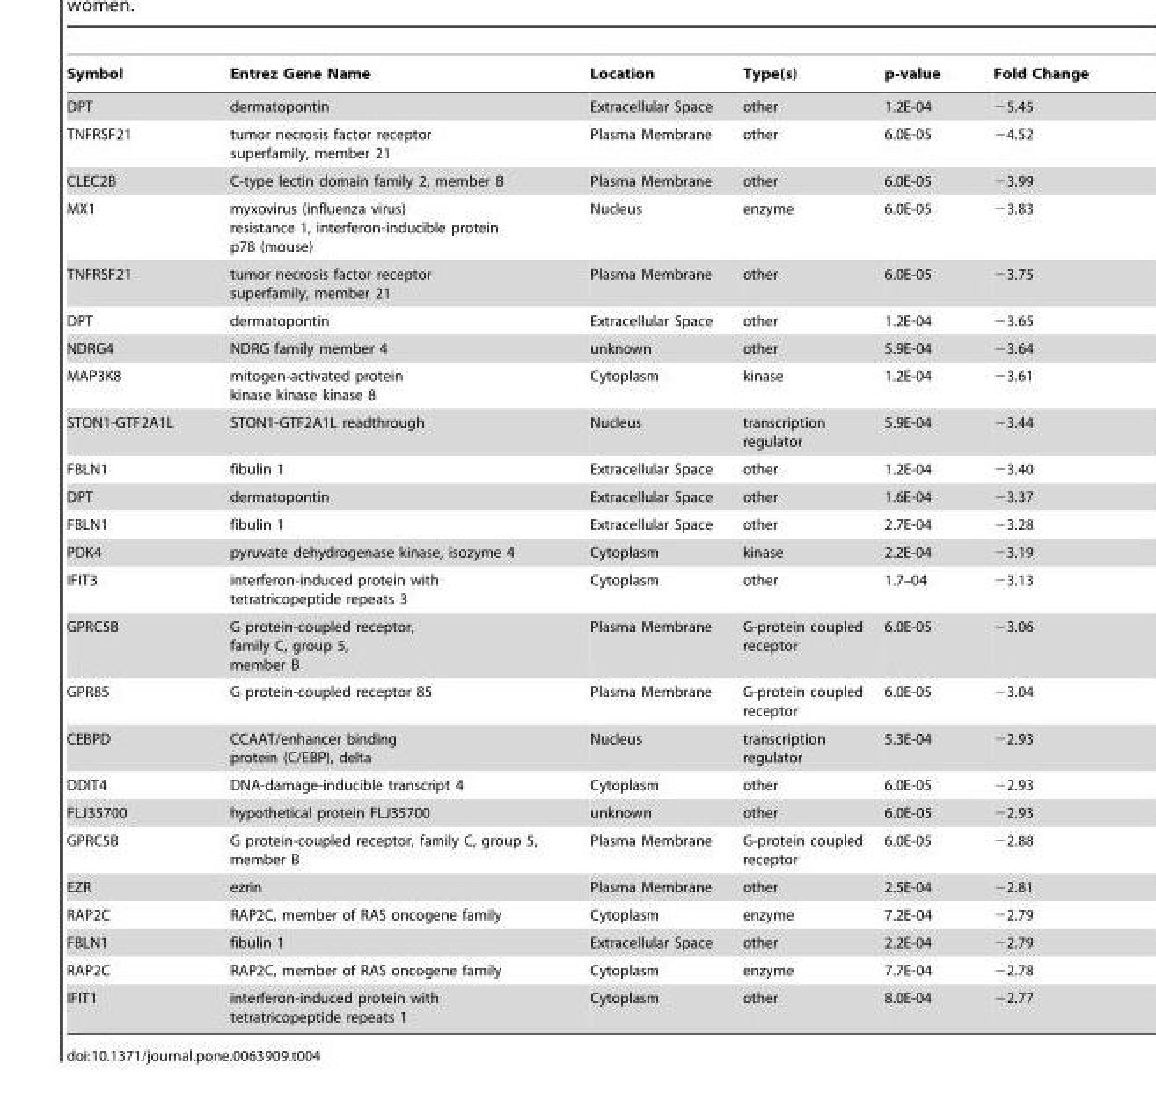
<table><thead><tr><td>Symbol</td><td>Entrez Gene Name</td><td>Location</td><td>Type(s)</td><td>p-value</td><td>Fold Change</td></tr></thead><tbody><tr><td>DPT</td><td>dermatopontin</td><td>Extracellular Space</td><td>other</td><td>1.2E-04</td><td>−5.45</td></tr><tr><td>TNFRSF21</td><td>tumor necrosis factor receptor superfamily, member 21</td><td>Plasma Membrane</td><td>other</td><td>6.0E-05</td><td>−4.52</td></tr><tr><td>CLEC2B</td><td>C-type lectin domain family 2, member B</td><td>Plasma Membrane</td><td>other</td><td>6.0E-05</td><td>−3.99</td></tr><tr><td>MX1</td><td>myxovirus (influenza virus) resistance 1, interferon-inducible protein p78 (mouse)</td><td>Nucleus</td><td>enzyme</td><td>6.0E-05</td><td>−3.83</td></tr><tr><td>TNFRSF21</td><td>tumor necrosis factor receptor superfamily, member 21</td><td>Plasma Membrane</td><td>other</td><td>6.0E-05</td><td>−3.75</td></tr><tr><td>DPT</td><td>dermatopontin</td><td>Extracellular Space</td><td>other</td><td>1.2E-04</td><td>−3.65</td></tr><tr><td>NDRG4</td><td>NDRG family member 4</td><td>unknown</td><td>other</td><td>5.9E-04</td><td>−3.64</td></tr><tr><td>MAP3K8</td><td>mitogen-activated protein kinase kinase kinase 8</td><td>Cytoplasm</td><td>kinase</td><td>1.2E-04</td><td>−3.61</td></tr><tr><td>STON1-GTF2A1L</td><td>STON1-GTF2A1L readthrough</td><td>Nucleus</td><td>transcription regulator</td><td>5.9E-04</td><td>−3.44</td></tr><tr><td>FBLN1</td><td>fibulin 1</td><td>Extracellular Space</td><td>other</td><td>1.2E-04</td><td>−3.40</td></tr><tr><td>DPT</td><td>dermatopontin</td><td>Extracellular Space</td><td>other</td><td>1.6E-04</td><td>−3.37</td></tr><tr><td>FBLN1</td><td>fibulin 1</td><td>Extracellular Space</td><td>other</td><td>2.7E-04</td><td>−3.28</td></tr><tr><td>PDK4</td><td>pyruvate dehydrogenase kinase, isozyme 4</td><td>Cytoplasm</td><td>kinase</td><td>2.2E-04</td><td>−3.19</td></tr><tr><td>IFIT3</td><td>interferon-induced protein with tetratricopeptide repeats 3</td><td>Cytoplasm</td><td>other</td><td>1.7–04</td><td>−3.13</td></tr><tr><td>GPRC5B</td><td>G protein-coupled receptor, family C, group 5, member B</td><td>Plasma Membrane</td><td>G-protein coupled receptor</td><td>6.0E-05</td><td>−3.06</td></tr><tr><td>GPR85</td><td>G protein-coupled receptor 85</td><td>Plasma Membrane</td><td>G-protein coupled receptor</td><td>6.0E-05</td><td>−3.04</td></tr><tr><td>CEBPD</td><td>CCAAT/enhancer binding protein (C/EBP), delta</td><td>Nucleus</td><td>transcription regulator</td><td>5.3E-04</td><td>−2.93</td></tr><tr><td>DDIT4</td><td>DNA-damage-inducible transcript 4</td><td>Cytoplasm</td><td>other</td><td>6.0E-05</td><td>−2.93</td></tr><tr><td>FLJ35700</td><td>hypothetical protein FLJ35700</td><td>unknown</td><td>other</td><td>6.0E-05</td><td>−2.93</td></tr><tr><td>GPRC5B</td><td>G protein-coupled receptor, family C, group 5, member B</td><td>Plasma Membrane</td><td>G-protein coupled receptor</td><td>6.0E-05</td><td>−2.88</td></tr><tr><td>EZR</td><td>ezrin</td><td>Plasma Membrane</td><td>other</td><td>2.5E-04</td><td>−2.81</td></tr><tr><td>RAP2C</td><td>RAP2C, member of RAS oncogene family</td><td>Cytoplasm</td><td>enzyme</td><td>7.2E-04</td><td>−2.79</td></tr><tr><td>FBLN1</td><td>fibulin 1</td><td>Extracellular Space</td><td>other</td><td>2.2E-04</td><td>−2.79</td></tr><tr><td>RAP2C</td><td>RAP2C, member of RAS oncogene family</td><td>Cytoplasm</td><td>enzyme</td><td>7.7E-04</td><td>−2.78</td></tr><tr><td>IFIT1</td><td>interferon-induced protein with tetratricopeptide repeats 1</td><td>Cytoplasm</td><td>other</td><td>8.0E-04</td><td>−2.77</td></tr></tbody></table>